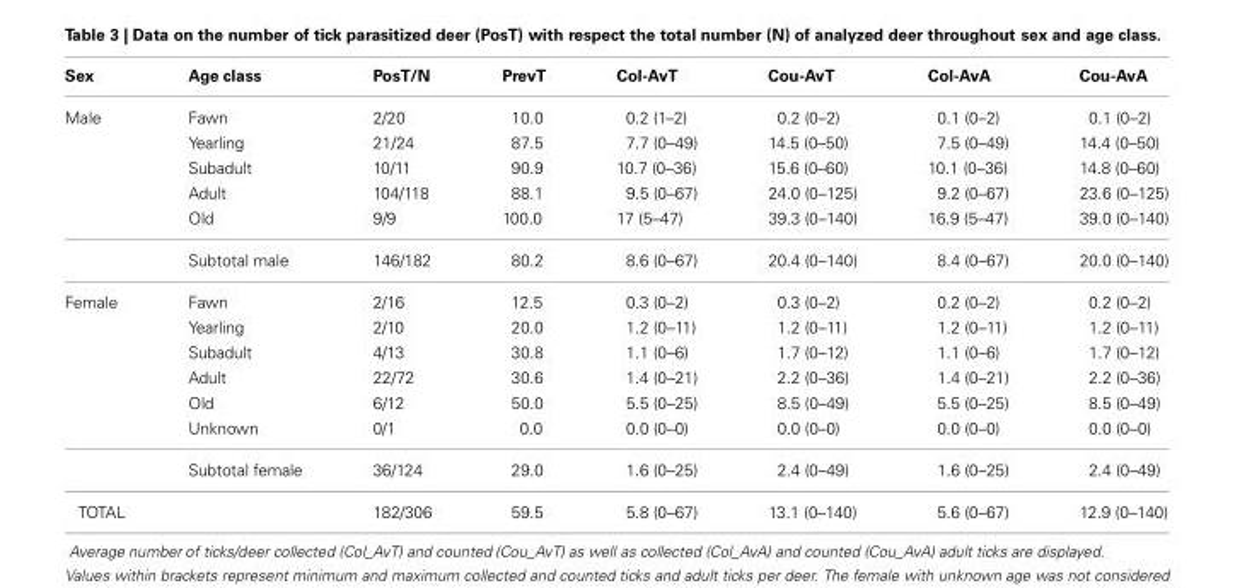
<table><thead><tr><td>Sex</td><td>Age class</td><td>PosT/N</td><td>PrevT</td><td>Col-AvT</td><td>Cou-AvT</td><td>Col-AvA</td><td>Cou-AvA</td></tr></thead><tbody><tr><td rowspan="6">Male</td><td>Fawn</td><td>2/20</td><td>10.0</td><td>0.2 (1–2)</td><td>0.2 (0–2)</td><td>0.1 (0–2)</td><td>0.1 (0–2)</td></tr><tr><td>Yearling</td><td>21/24</td><td>87.5</td><td>7.7 (0–49)</td><td>14.5 (0–50)</td><td>7.5 (0–49)</td><td>14.4 (0–50)</td></tr><tr><td>Subadult</td><td>10/11</td><td>90.9</td><td>10.7 (0–36)</td><td>15.6 (0–60)</td><td>10.1 (0–36)</td><td>14.8 (0–60)</td></tr><tr><td>Adult</td><td>104/118</td><td>88.1</td><td>9.5 (0–67)</td><td>24.0 (0–125)</td><td>9.2 (0–67)</td><td>23.6 (0–125)</td></tr><tr><td>Old</td><td>9/9</td><td>100.0</td><td>17 (5–47)</td><td>39.3 (0–140)</td><td>16.9 (5–47)</td><td>39.0 (0–140)</td></tr><tr><td>Subtotal male</td><td>146/182</td><td>80.2</td><td>8.6 (0–67)</td><td>20.4 (0–140)</td><td>8.4 (0–67)</td><td>20.0 (0–140)</td></tr><tr><td rowspan="7">Female</td><td>Fawn</td><td>2/16</td><td>12.5</td><td>0.3 (0–2)</td><td>0.3 (0–2)</td><td>0.2 (0–2)</td><td>0.2 (0–2)</td></tr><tr><td>Yearling</td><td>2/10</td><td>20.0</td><td>1.2 (0–11)</td><td>1.2 (0–11)</td><td>1.2 (0–11)</td><td>1.2 (0–11)</td></tr><tr><td>Subadult</td><td>4/13</td><td>30.8</td><td>1.1 (0–6)</td><td>1.7 (0–12)</td><td>1.1 (0–6)</td><td>1.7 (0–12)</td></tr><tr><td>Adult</td><td>22/72</td><td>30.6</td><td>1.4 (0–21)</td><td>2.2 (0–36)</td><td>1.4 (0–21)</td><td>2.2 (0–36)</td></tr><tr><td>Old</td><td>6/12</td><td>50.0</td><td>5.5 (0–25)</td><td>8.5 (0–49)</td><td>5.5 (0–25)</td><td>8.5 (0–49)</td></tr><tr><td>Unknown</td><td>0/1</td><td>0.0</td><td>0.0 (0–0)</td><td>0.0 (0–0)</td><td>0.0 (0–0)</td><td>0.0 (0–0)</td></tr><tr><td>Subtotal female</td><td>36/124</td><td>29.0</td><td>1.6 (0–25)</td><td>2.4 (0–49)</td><td>1.6 (0–25)</td><td>2.4 (0–49)</td></tr><tr><td colspan="2">TOTAL</td><td>182/306</td><td>59.5</td><td>5.8 (0–67)</td><td>13.1 (0–140)</td><td>5.6 (0–67)</td><td>12.9 (0–140)</td></tr></tbody></table>